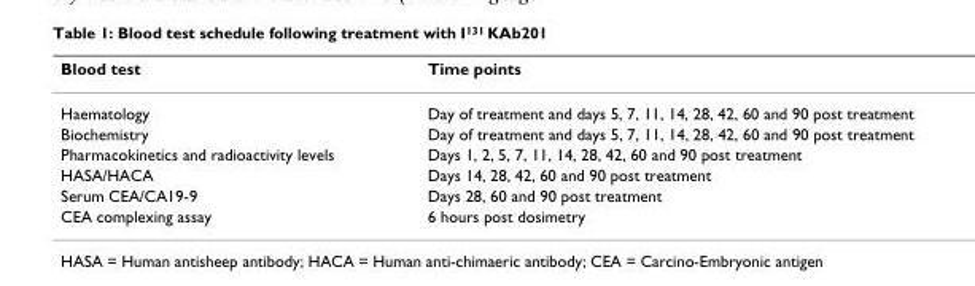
<table><thead><tr><td>Blood test</td><td>Time points</td></tr></thead><tbody><tr><td>Haematology</td><td>Day of treatment and days 5, 7, 11, 14, 28, 42, 60 and 90 post treatment</td></tr><tr><td>Biochemistry</td><td>Day of treatment and days 5, 7, 11, 14, 28, 42, 60 and 90 post treatment</td></tr><tr><td>Pharmacokinetics and radioactivity levels</td><td>Days 1, 2, 5, 7, 11, 14, 28, 42, 60 and 90 post treatment</td></tr><tr><td>HASA/HACA</td><td>Days 14, 28, 42, 60 and 90 post treatment</td></tr><tr><td>Serum CEA/CA19-9</td><td>Days 28, 60 and 90 post treatment</td></tr><tr><td>CEA complexing assay</td><td>6 hours post dosimetry</td></tr></tbody></table>